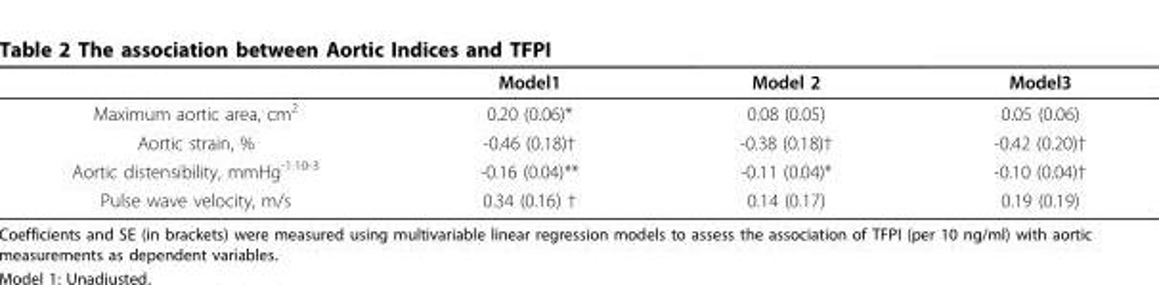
<table><thead><tr><td></td><td>Model1</td><td>Model 2</td><td>Model3</td></tr></thead><tbody><tr><td>Maximum aortic area, cm<sup>2</sup></td><td>0.20 (0.06)*</td><td>0.08 (0.05)</td><td>0.05 (0.06)</td></tr><tr><td>Aortic strain, %</td><td>-0.46 (0.18)†</td><td>-0.38 (0.18)†</td><td>-0.42 (0.20)†</td></tr><tr><td>Aortic distensibility, mmHg<sup>-1·10-3</sup></td><td>-0.16 (0.04)**</td><td>-0.11 (0.04)*</td><td>-0.10 (0.04)†</td></tr><tr><td>Pulse wave velocity, m/s</td><td>0.34 (0.16) †</td><td>0.14 (0.17)</td><td>0.19 (0.19)</td></tr></tbody></table>